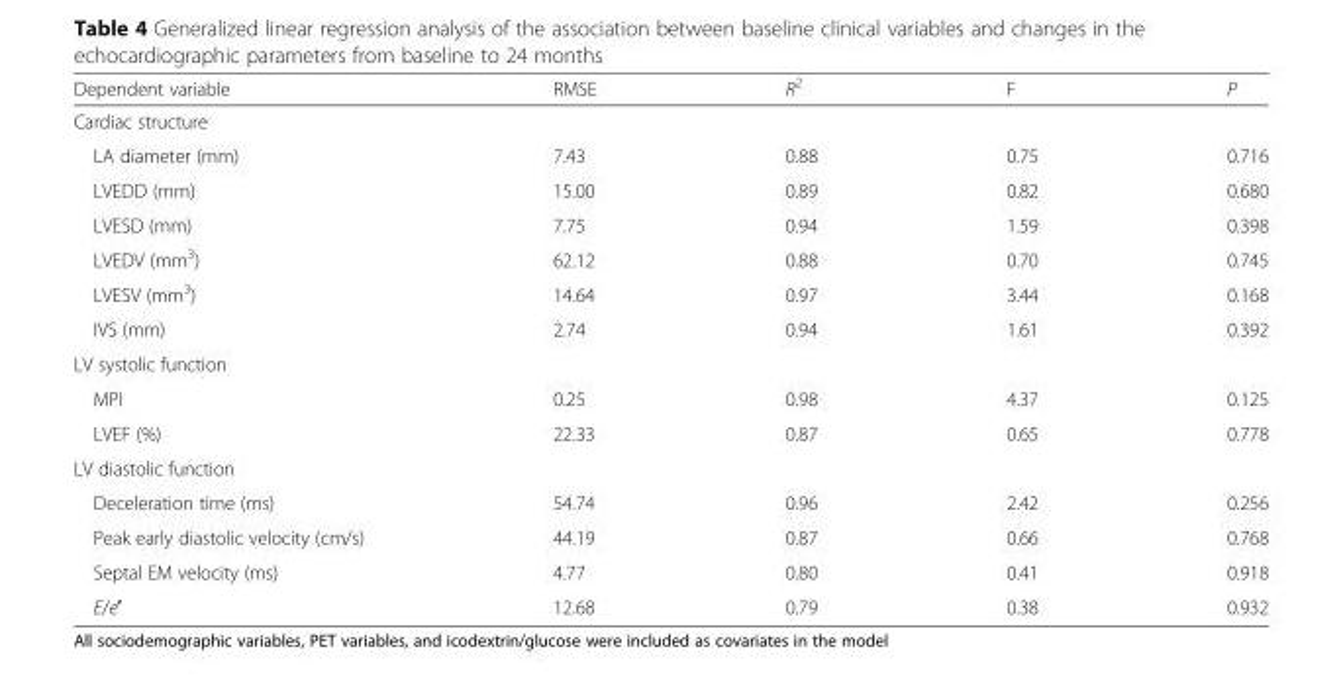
<table><thead><tr><td>Dependent variable</td><td>RMSE</td><td>R<sup>2</sup></td><td>F</td><td>P</td></tr></thead><tbody><tr><td colspan="5">Cardiac structure</td></tr><tr><td>LA diameter (mm)</td><td>7.43</td><td>0.88</td><td>0.75</td><td>0.716</td></tr><tr><td>LVEDD (mm)</td><td>15.00</td><td>0.89</td><td>0.82</td><td>0.680</td></tr><tr><td>LVESD (mm)</td><td>7.75</td><td>0.94</td><td>1.59</td><td>0.398</td></tr><tr><td>LVEDV (mm<sup>3</sup>)</td><td>62.12</td><td>0.88</td><td>0.70</td><td>0.745</td></tr><tr><td>LVESV (mm<sup>3</sup>)</td><td>14.64</td><td>0.97</td><td>3.44</td><td>0.168</td></tr><tr><td>IVS (mm)</td><td>2.74</td><td>0.94</td><td>1.61</td><td>0.392</td></tr><tr><td colspan="5">LV systolic function</td></tr><tr><td>MPI</td><td>0.25</td><td>0.98</td><td>4.37</td><td>0.125</td></tr><tr><td>LVEF (%)</td><td>22.33</td><td>0.87</td><td>0.65</td><td>0.778</td></tr><tr><td colspan="5">LV diastolic function</td></tr><tr><td>Deceleration time (ms)</td><td>54.74</td><td>0.96</td><td>2.42</td><td>0.256</td></tr><tr><td>Peak early diastolic velocity (cm/s)</td><td>44.19</td><td>0.87</td><td>0.66</td><td>0.768</td></tr><tr><td>Septal EM velocity (ms)</td><td>4.77</td><td>0.80</td><td>0.41</td><td>0.918</td></tr><tr><td>E/e′</td><td>12.68</td><td>0.79</td><td>0.38</td><td>0.932</td></tr></tbody></table>